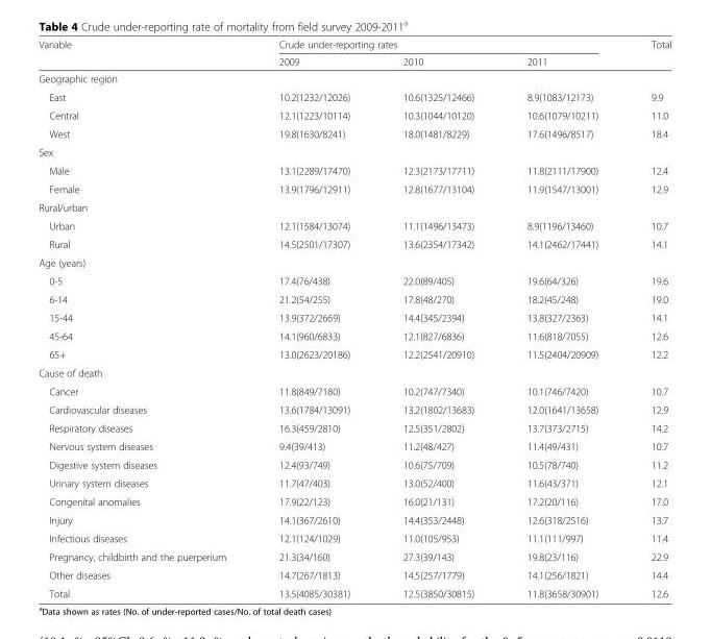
<table><thead><tr><td rowspan="2">Variable</td><td colspan="3">Crude under-reporting rates</td><td rowspan="2">Total</td></tr><tr><td>2009</td><td>2010</td><td>2011</td></tr></thead><tbody><tr><td colspan="5">Geographic region</td></tr><tr><td>East</td><td>10.2(1232/12026)</td><td>10.6(1325/12466)</td><td>8.9(1083/12173)</td><td>9.9</td></tr><tr><td>Central</td><td>12.1(1223/10114)</td><td>10.3(1044/10120)</td><td>10.6(1079/10211)</td><td>11.0</td></tr><tr><td>West</td><td>19.8(1630/8241)</td><td>18.0(1481/8229)</td><td>17.6(1496/8517)</td><td>18.4</td></tr><tr><td colspan="5">Sex</td></tr><tr><td>Male</td><td>13.1(2289/17470)</td><td>12.3(2173/17711)</td><td>11.8(2111/17900)</td><td>12.4</td></tr><tr><td>Female</td><td>13.9(1796/12911)</td><td>12.8(1677/13104)</td><td>11.9(1547/13001)</td><td>12.9</td></tr><tr><td colspan="5">Rural/urban</td></tr><tr><td>Urban</td><td>12.1(1584/13074)</td><td>11.1(1496/13473)</td><td>8.9(1196/13460)</td><td>10.7</td></tr><tr><td>Rural</td><td>14.5(2501/17307)</td><td>13.6(2354/17342)</td><td>14.1(2462/17441)</td><td>14.1</td></tr><tr><td colspan="5">Age (years)</td></tr><tr><td>0-5</td><td>17.4(76/438)</td><td>22.0(89/405)</td><td>19.6(64/326)</td><td>19.6</td></tr><tr><td>6-14</td><td>21.2(54/255)</td><td>17.8(48/270)</td><td>18.2(45/248)</td><td>19.0</td></tr><tr><td>15-44</td><td>13.9(372/2669)</td><td>14.4(345/2394)</td><td>13.8(327/2363)</td><td>14.1</td></tr><tr><td>45-64</td><td>14.1(960/6833)</td><td>12.1(827/6836)</td><td>11.6(818/7055)</td><td>12.6</td></tr><tr><td>65+</td><td>13.0(2623/20186)</td><td>12.2(2541/20910)</td><td>11.5(2404/20909)</td><td>12.2</td></tr><tr><td colspan="5">Cause of death</td></tr><tr><td>Cancer</td><td>11.8(849/7180)</td><td>10.2(747/7340)</td><td>10.1(746/7420)</td><td>10.7</td></tr><tr><td>Cardiovascular diseases</td><td>13.6(1784/13091)</td><td>13.2(1802/13683)</td><td>12.0(1641/13658)</td><td>12.9</td></tr><tr><td>Respiratory diseases</td><td>16.3(459/2810)</td><td>12.5(351/2802)</td><td>13.7(373/2715)</td><td>14.2</td></tr><tr><td>Nervous system diseases</td><td>9.4(39/413)</td><td>11.2(48/427)</td><td>11.4(49/431)</td><td>10.7</td></tr><tr><td>Digestive system diseases</td><td>12.4(93/749)</td><td>10.6(75/709)</td><td>10.5(78/740)</td><td>11.2</td></tr><tr><td>Urinary system diseases</td><td>11.7(47/403)</td><td>13.0(52/400)</td><td>11.6(43/371)</td><td>12.1</td></tr><tr><td>Congenital anomalies</td><td>17.9(22/123)</td><td>16.0(21/131)</td><td>17.2(20/116)</td><td>17.0</td></tr><tr><td>Injury</td><td>14.1(367/2610)</td><td>14.4(353/2448)</td><td>12.6(318/2516)</td><td>13.7</td></tr><tr><td>Infectious diseases</td><td>12.1(124/1029)</td><td>11.0(105/953)</td><td>11.1(111/997)</td><td>11.4</td></tr><tr><td>Pregnancy, childbirth and the puerperium</td><td>21.3(34/160)</td><td>27.3(39/143)</td><td>19.8(23/116)</td><td>22.9</td></tr><tr><td>Other diseases</td><td>14.7(267/1813)</td><td>14.5(257/1779)</td><td>14.1(256/1821)</td><td>14.4</td></tr><tr><td>Total</td><td>13.5(4085/30381)</td><td>12.5(3850/30815)</td><td>11.8(3658/30901)</td><td>12.6</td></tr></tbody></table>